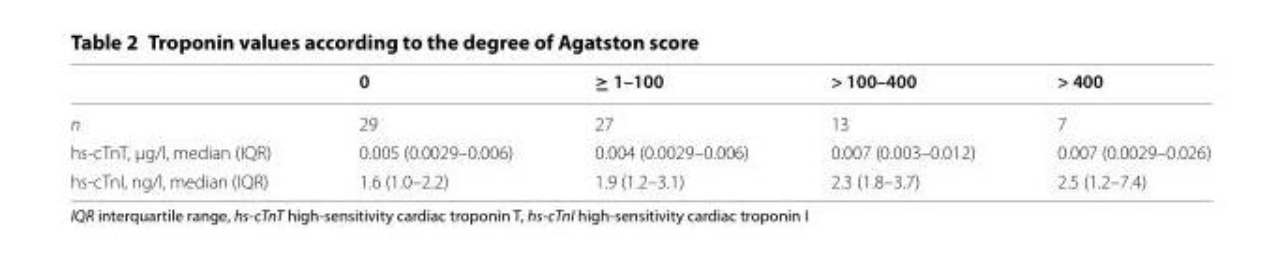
<table><thead><tr><td></td><td>0</td><td>≥ 1–100</td><td>&gt; 100–400</td><td>&gt; 400</td></tr></thead><tbody><tr><td>n</td><td>29</td><td>27</td><td>13</td><td>7</td></tr><tr><td>hs-cTnT, µg/l, median (IQR)</td><td>0.005 (0.0029–0.006)</td><td>0.004 (0.0029–0.006)</td><td>0.007 (0.003–0.012)</td><td>0.007 (0.0029–0.026)</td></tr><tr><td>hs-cTnI, ng/l, median (IQR)</td><td>1.6 (1.0–2.2)</td><td>1.9 (1.2–3.1)</td><td>2.3 (1.8–3.7)</td><td>2.5 (1.2–7.4)</td></tr></tbody></table>